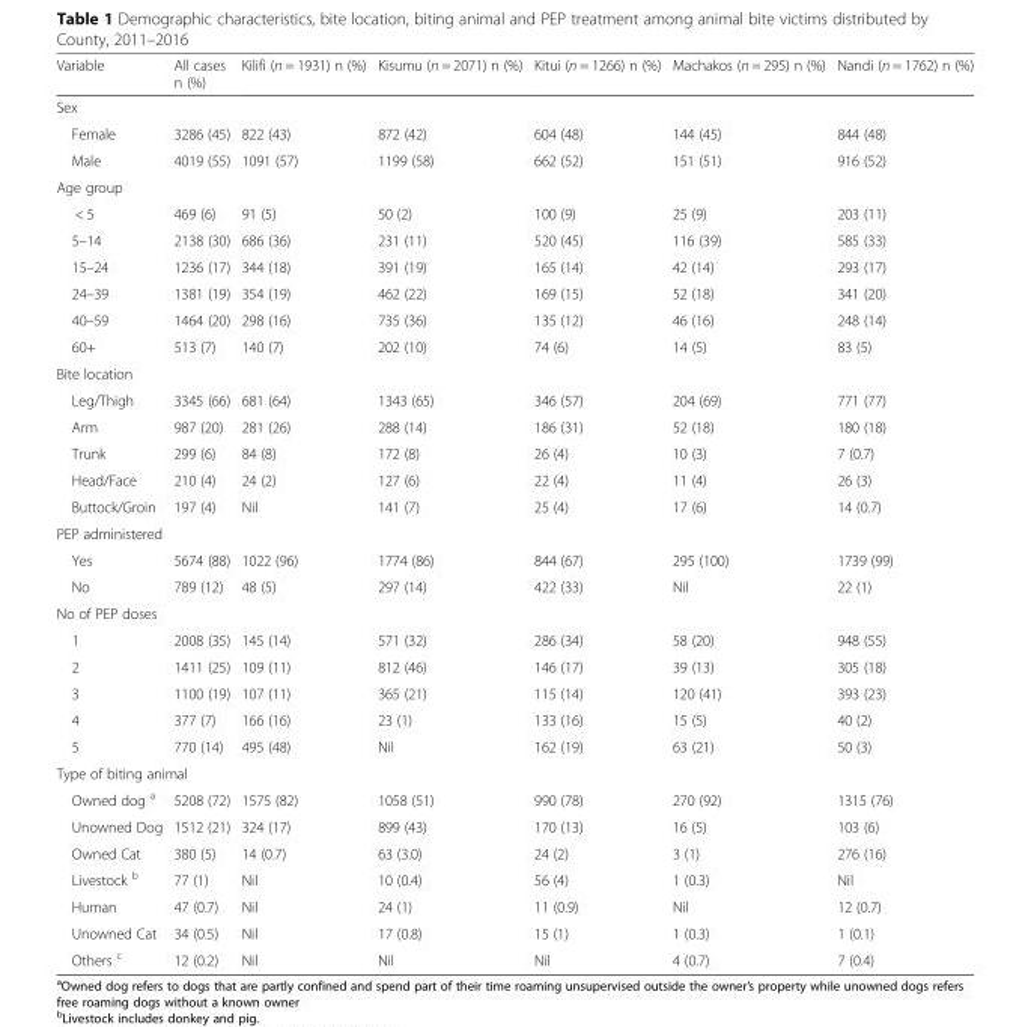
<table><thead><tr><td>Variable</td><td>All cases n (%)</td><td>Kilifi (n = 1931) n (%)</td><td>Kisumu (n = 2071) n (%)</td><td>Kitui (n = 1266) n (%)</td><td>Machakos (n = 295) n (%)</td><td>Nandi (n = 1762) n (%)</td></tr></thead><tbody><tr><td colspan="7">Sex</td></tr><tr><td>Female</td><td>3286 (45)</td><td>822 (43)</td><td>872 (42)</td><td>604 (48)</td><td>144 (45)</td><td>844 (48)</td></tr><tr><td>Male</td><td>4019 (55)</td><td>1091 (57)</td><td>1199 (58)</td><td>662 (52)</td><td>151 (51)</td><td>916 (52)</td></tr><tr><td colspan="7">Age group</td></tr><tr><td>&lt; 5</td><td>469 (6)</td><td>91 (5)</td><td>50 (2)</td><td>100 (9)</td><td>25 (9)</td><td>203 (11)</td></tr><tr><td>5–14</td><td>2138 (30)</td><td>686 (36)</td><td>231 (11)</td><td>520 (45)</td><td>116 (39)</td><td>585 (33)</td></tr><tr><td>15–24</td><td>1236 (17)</td><td>344 (18)</td><td>391 (19)</td><td>165 (14)</td><td>42 (14)</td><td>293 (17)</td></tr><tr><td>24–39</td><td>1381 (19)</td><td>354 (19)</td><td>462 (22)</td><td>169 (15)</td><td>52 (18)</td><td>341 (20)</td></tr><tr><td>40–59</td><td>1464 (20)</td><td>298 (16)</td><td>735 (36)</td><td>135 (12)</td><td>46 (16)</td><td>248 (14)</td></tr><tr><td>60+</td><td>513 (7)</td><td>140 (7)</td><td>202 (10)</td><td>74 (6)</td><td>14 (5)</td><td>83 (5)</td></tr><tr><td colspan="7">Bite location</td></tr><tr><td>Leg/Thigh</td><td>3345 (66)</td><td>681 (64)</td><td>1343 (65)</td><td>346 (57)</td><td>204 (69)</td><td>771 (77)</td></tr><tr><td>Arm</td><td>987 (20)</td><td>281 (26)</td><td>288 (14)</td><td>186 (31)</td><td>52 (18)</td><td>180 (18)</td></tr><tr><td>Trunk</td><td>299 (6)</td><td>84 (8)</td><td>172 (8)</td><td>26 (4)</td><td>10 (3)</td><td>7 (0.7)</td></tr><tr><td>Head/Face</td><td>210 (4)</td><td>24 (2)</td><td>127 (6)</td><td>22 (4)</td><td>11 (4)</td><td>26 (3)</td></tr><tr><td>Buttock/Groin</td><td>197 (4)</td><td>Nil</td><td>141 (7)</td><td>25 (4)</td><td>17 (6)</td><td>14 (0.7)</td></tr><tr><td colspan="7">PEP administered</td></tr><tr><td>Yes</td><td>5674 (88)</td><td>1022 (96)</td><td>1774 (86)</td><td>844 (67)</td><td>295 (100)</td><td>1739 (99)</td></tr><tr><td>No</td><td>789 (12)</td><td>48 (5)</td><td>297 (14)</td><td>422 (33)</td><td>Nil</td><td>22 (1)</td></tr><tr><td colspan="7">No of PEP doses</td></tr><tr><td>1</td><td>2008 (35)</td><td>145 (14)</td><td>571 (32)</td><td>286 (34)</td><td>58 (20)</td><td>948 (55)</td></tr><tr><td>2</td><td>1411 (25)</td><td>109 (11)</td><td>812 (46)</td><td>146 (17)</td><td>39 (13)</td><td>305 (18)</td></tr><tr><td>3</td><td>1100 (19)</td><td>107 (11)</td><td>365 (21)</td><td>115 (14)</td><td>120 (41)</td><td>393 (23)</td></tr><tr><td>4</td><td>377 (7)</td><td>166 (16)</td><td>23 (1)</td><td>133 (16)</td><td>15 (5)</td><td>40 (2)</td></tr><tr><td>5</td><td>770 (14)</td><td>495 (48)</td><td>Nil</td><td>162 (19)</td><td>63 (21)</td><td>50 (3)</td></tr><tr><td colspan="7">Type of biting animal</td></tr><tr><td>Owned dog <sup>a</sup></td><td>5208 (72)</td><td>1575 (82)</td><td>1058 (51)</td><td>990 (78)</td><td>270 (92)</td><td>1315 (76)</td></tr><tr><td>Unowned Dog</td><td>1512 (21)</td><td>324 (17)</td><td>899 (43)</td><td>170 (13)</td><td>16 (5)</td><td>103 (6)</td></tr><tr><td>Owned Cat</td><td>380 (5)</td><td>14 (0.7)</td><td>63 (3.0)</td><td>24 (2)</td><td>3 (1)</td><td>276 (16)</td></tr><tr><td>Livestock <sup>b</sup></td><td>77 (1)</td><td>Nil</td><td>10 (0.4)</td><td>56 (4)</td><td>1 (0.3)</td><td>Nil</td></tr><tr><td>Human</td><td>47 (0.7)</td><td>Nil</td><td>24 (1)</td><td>11 (0.9)</td><td>Nil</td><td>12 (0.7)</td></tr><tr><td>Unowned Cat</td><td>34 (0.5)</td><td>Nil</td><td>17 (0.8)</td><td>15 (1)</td><td>1 (0.3)</td><td>1 (0.1)</td></tr><tr><td>Others <sup>c</sup></td><td>12 (0.2)</td><td>Nil</td><td>Nil</td><td>Nil</td><td>4 (0.7)</td><td>7 (0.4)</td></tr></tbody></table>